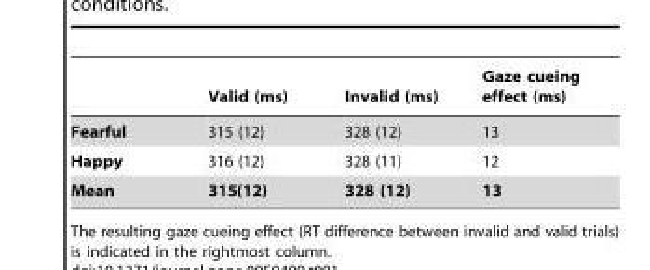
<table><thead><tr><td></td><td>Valid (ms)</td><td>Invalid (ms)</td><td>Gaze cueing effect (ms)</td></tr></thead><tbody><tr><td>Fearful</td><td>315 (12)</td><td>328 (12)</td><td>13</td></tr><tr><td>Happy</td><td>316 (12)</td><td>328 (11)</td><td>12</td></tr><tr><td>Mean</td><td>315(12)</td><td>328 (12)</td><td>13</td></tr></tbody></table>